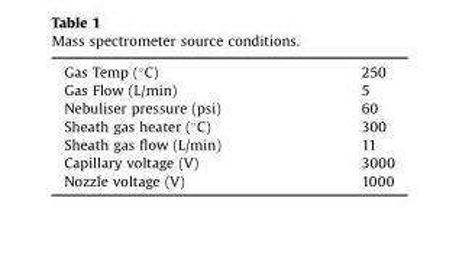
<table><tbody><tr><td>Gas Temp (°C)</td><td>250</td></tr><tr><td>Gas Flow (L/min)</td><td>5</td></tr><tr><td>Nebuliser pressure (psi)</td><td>60</td></tr><tr><td>Sheath gas heater (°C)</td><td>300</td></tr><tr><td>Sheath gas flow (L/min)</td><td>11</td></tr><tr><td>Capillary voltage (V)</td><td>3000</td></tr><tr><td>Nozzle voltage (V)</td><td>1000</td></tr></tbody></table>